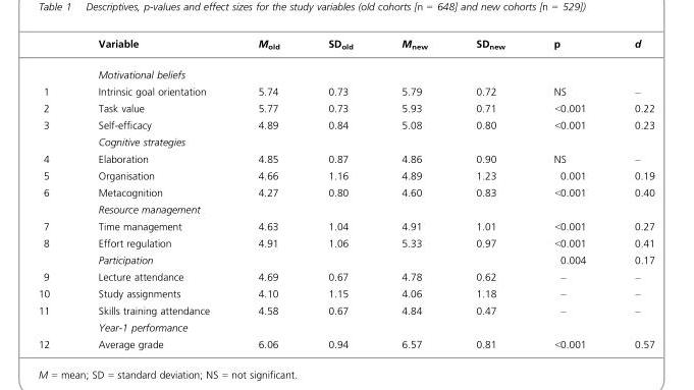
<table><thead><tr><td></td><td>Variable</td><td>M<sub>old</sub></td><td>SD<sub>old</sub></td><td>M<sub>new</sub></td><td>SD<sub>new</sub></td><td>p</td><td>d</td></tr></thead><tbody><tr><td></td><td colspan="7">Motivational beliefs</td></tr><tr><td>1</td><td>Intrinsic goal orientation</td><td>5.74</td><td>0.73</td><td>5.79</td><td>0.72</td><td>NS</td><td>–</td></tr><tr><td>2</td><td>Task value</td><td>5.77</td><td>0.73</td><td>5.93</td><td>0.71</td><td>&lt;0.001</td><td>0.22</td></tr><tr><td rowspan="2">3</td><td>Self-efficacy</td><td>4.89</td><td>0.84</td><td>5.08</td><td>0.80</td><td>&lt;0.001</td><td>0.23</td></tr><tr><td colspan="7">Cognitive strategies</td></tr><tr><td>4</td><td>Elaboration</td><td>4.85</td><td>0.87</td><td>4.86</td><td>0.90</td><td>NS</td><td>–</td></tr><tr><td>5</td><td>Organisation</td><td>4.66</td><td>1.16</td><td>4.89</td><td>1.23</td><td>0.001</td><td>0.19</td></tr><tr><td rowspan="2">6</td><td>Metacognition</td><td>4.27</td><td>0.80</td><td>4.60</td><td>0.83</td><td>&lt;0.001</td><td>0.40</td></tr><tr><td colspan="7">Resource management</td></tr><tr><td>7</td><td>Time management</td><td>4.63</td><td>1.04</td><td>4.91</td><td>1.01</td><td>&lt;0.001</td><td>0.27</td></tr><tr><td rowspan="2">8</td><td>Effort regulation</td><td>4.91</td><td>1.06</td><td>5.33</td><td>0.97</td><td>&lt;0.001</td><td>0.41</td></tr><tr><td>Participation</td><td></td><td></td><td></td><td></td><td>0.004</td><td>0.17</td></tr><tr><td>9</td><td>Lecture attendance</td><td>4.69</td><td>0.67</td><td>4.78</td><td>0.62</td><td>–</td><td>–</td></tr><tr><td>10</td><td>Study assignments</td><td>4.10</td><td>1.15</td><td>4.06</td><td>1.18</td><td>–</td><td>–</td></tr><tr><td rowspan="2">11</td><td>Skills training attendance</td><td>4.58</td><td>0.67</td><td>4.84</td><td>0.47</td><td>–</td><td>–</td></tr><tr><td colspan="7">Year-1 performance</td></tr><tr><td>12</td><td>Average grade</td><td>6.06</td><td>0.94</td><td>6.57</td><td>0.81</td><td>&lt;0.001</td><td>0.57</td></tr></tbody></table>